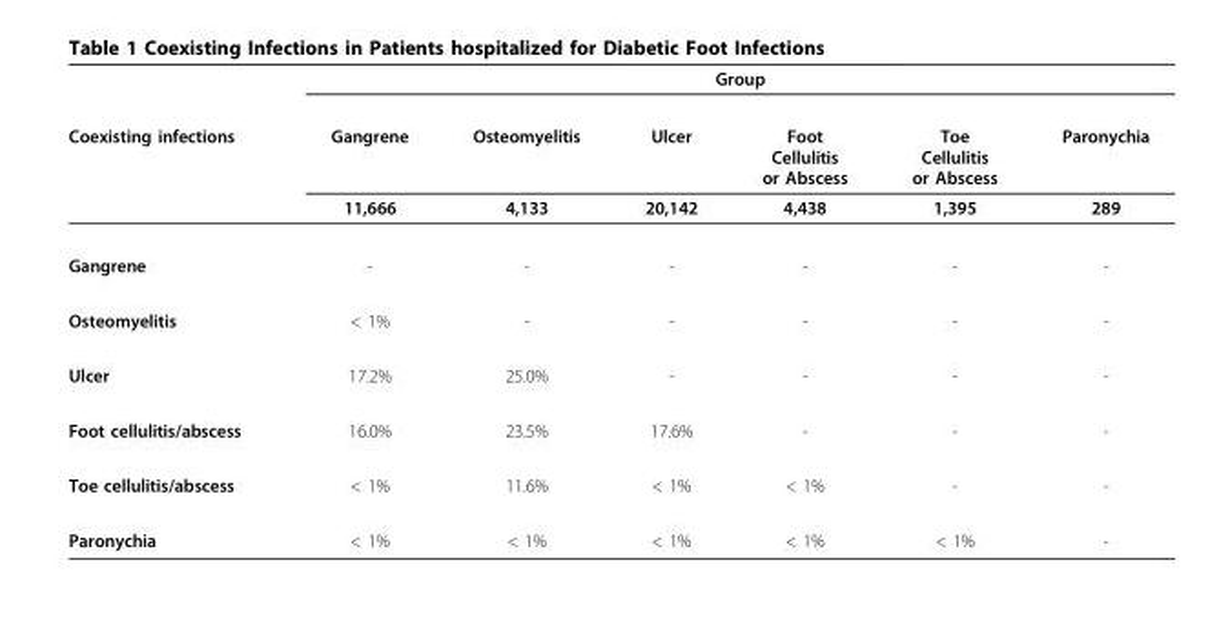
<table><thead><tr><td rowspan="3">Coexisting infections</td><td colspan="6">Group</td></tr><tr><td rowspan="2">Gangrene 11,666</td><td rowspan="2">Osteomyelitis 4,133</td><td rowspan="2">Ulcer 20,142</td><td rowspan="2">Foot Cellulitis or Abscess 4,438</td><td rowspan="2">Toe Cellulitis or Abscess 1,395</td><td rowspan="2">Paronychia 289</td></tr><tr></tr></thead><tbody><tr><td>Gangrene</td><td>-</td><td>-</td><td>-</td><td>-</td><td>-</td><td>-</td></tr><tr><td>Osteomyelitis</td><td>&lt; 1%</td><td>-</td><td>-</td><td>-</td><td>-</td><td>-</td></tr><tr><td>Ulcer</td><td>17.2%</td><td>25.0%</td><td>-</td><td>-</td><td>-</td><td>-</td></tr><tr><td>Foot cellulitis/abscess</td><td>16.0%</td><td>23.5%</td><td>17.6%</td><td>-</td><td>-</td><td>-</td></tr><tr><td>Toe cellulitis/abscess</td><td>&lt; 1%</td><td>11.6%</td><td>&lt; 1%</td><td>&lt; 1%</td><td>-</td><td>-</td></tr><tr><td>Paronychia</td><td>&lt; 1%</td><td>&lt; 1%</td><td>&lt; 1%</td><td>&lt; 1%</td><td>&lt; 1%</td><td>-</td></tr></tbody></table>